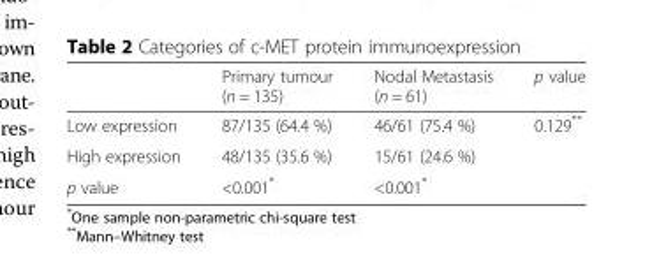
<table><thead><tr><td></td><td>Primary tumour (n = 135)</td><td>Nodal Metastasis (n = 61)</td><td>p value</td></tr></thead><tbody><tr><td>Low expression</td><td>87/135 (64.4 %)</td><td>46/61 (75.4 %)</td><td rowspan="2">0.129**</td></tr><tr><td>High expression</td><td>48/135 (35.6 %)</td><td>15/61 (24.6 %)</td></tr><tr><td>p value</td><td>&lt;0.001*</td><td>&lt;0.001*</td><td></td></tr></tbody></table>